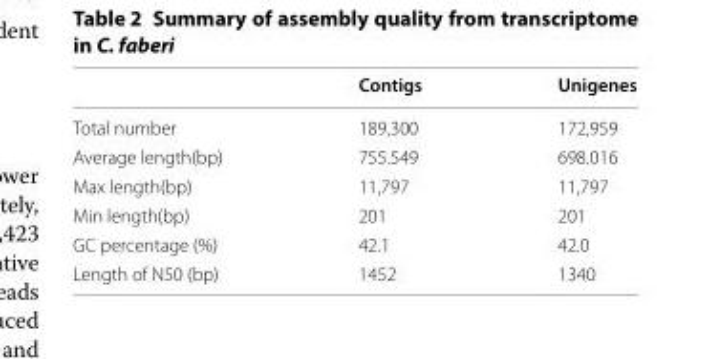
<table><thead><tr><td></td><td>Contigs</td><td>Unigenes</td></tr></thead><tbody><tr><td>Total number</td><td>189,300</td><td>172,959</td></tr><tr><td>Average length(bp)</td><td>755.549</td><td>698.016</td></tr><tr><td>Max length(bp)</td><td>11,797</td><td>11,797</td></tr><tr><td>Min length(bp)</td><td>201</td><td>201</td></tr><tr><td>GC percentage (%)</td><td>42.1</td><td>42.0</td></tr><tr><td>Length of N50 (bp)</td><td>1452</td><td>1340</td></tr></tbody></table>